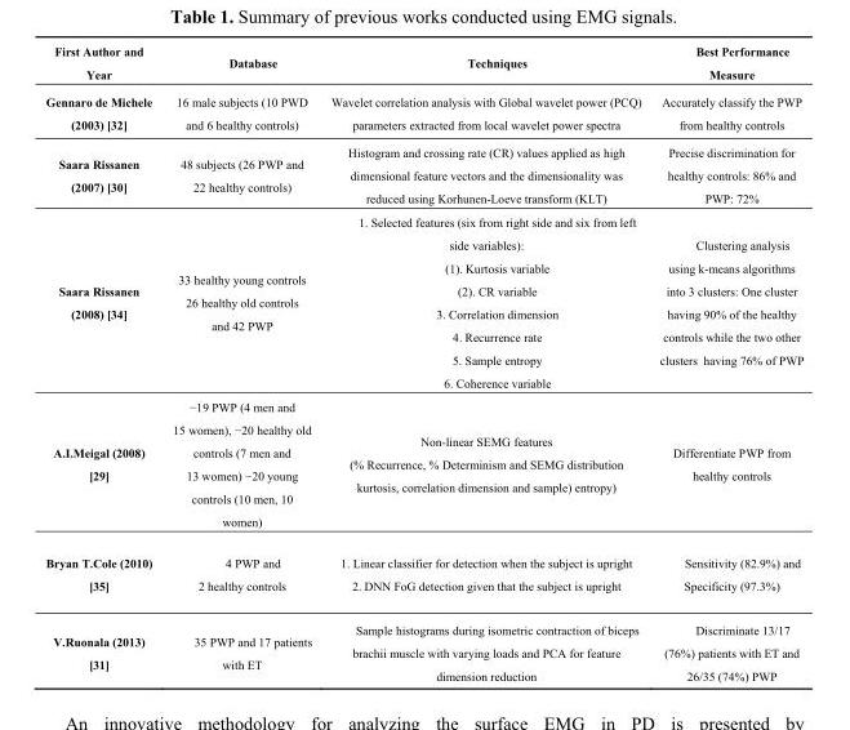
<table><thead><tr><td>First Author and Year</td><td>Database</td><td>Techniques</td><td>Best Performance Measure</td></tr></thead><tbody><tr><td>Gennaro de Michele (2003) [32]</td><td>16 male subjects (10 PWD and 6 healthy controls)</td><td>Wavelet correlation analysis with Global wavelet power (PCQ) parameters extracted from local wavelet power spectra</td><td>Accurately classify the PWP from healthy controls</td></tr><tr><td>Saara Rissanen (2007) [30]</td><td>48 subjects (26 PWP and 22 healthy controls)</td><td>Histogram and crossing rate (CR) values applied as high dimensional feature vectors and the dimensionality was reduced using Korhunen-Loeve transform (KLT)</td><td>Precise discrimination for healthy controls: 86% and PWP: 72%</td></tr><tr><td>Saara Rissanen (2008) [34]</td><td>33 healthy young controls 26 healthy old controls and 42 PWP</td><td>1. Selected features (six from right side and six from left side variables): (1). Kurtosis variable (2). CR variable 3. Correlation dimension 4. Recurrence rate 5. Sample entropy 6. Coherence variable</td><td>Clustering analysis using k-means algorithms into 3 clusters: One cluster having 90% of the healthy controls while the two other clusters having 76% of PWP</td></tr><tr><td>A.I.Meigal (2008) [29]</td><td>−19 PWP (4 men and 15 women), −20 healthy old controls (7 men and 13 women) −20 young controls (10 men, 10 women)</td><td>Non-linear SEMG features (% Recurrence, % Determinism and SEMG distribution kurtosis, correlation dimension and sample) entropy)</td><td>Differentiate PWP from healthy controls</td></tr><tr><td>Bryan T.Cole (2010) [35]</td><td>4 PWP and 2 healthy controls</td><td>1. Linear classifier for detection when the subject is upright 2. DNN FoG detection given that the subject is upright</td><td>Sensitivity (82.9%) and Specificity (97.3%)</td></tr><tr><td>V.Ruonala (2013) [31]</td><td>35 PWP and 17 patients with ET</td><td>Sample histograms during isometric contraction of biceps brachii muscle with varying loads and PCA for feature dimension reduction</td><td>Discriminate 13/17 (76%) patients with ET and 26/35 (74%) PWP</td></tr></tbody></table>